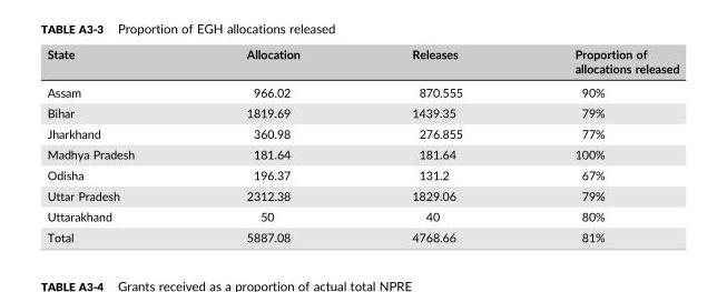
<table><thead><tr><td>State</td><td>Allocation</td><td>Releases</td><td>Proportion of allocations released</td></tr></thead><tbody><tr><td>Assam</td><td>966.02</td><td>870.555</td><td>90%</td></tr><tr><td>Bihar</td><td>1819.69</td><td>1439.35</td><td>79%</td></tr><tr><td>Jharkhand</td><td>360.98</td><td>276.855</td><td>77%</td></tr><tr><td>Madhya Pradesh</td><td>181.64</td><td>181.64</td><td>100%</td></tr><tr><td>Odisha</td><td>196.37</td><td>131.2</td><td>67%</td></tr><tr><td>Uttar Pradesh</td><td>2312.38</td><td>1829.06</td><td>79%</td></tr><tr><td>Uttarakhand</td><td>50</td><td>40</td><td>80%</td></tr><tr><td>Total</td><td>5887.08</td><td>4768.66</td><td>81%</td></tr></tbody></table>